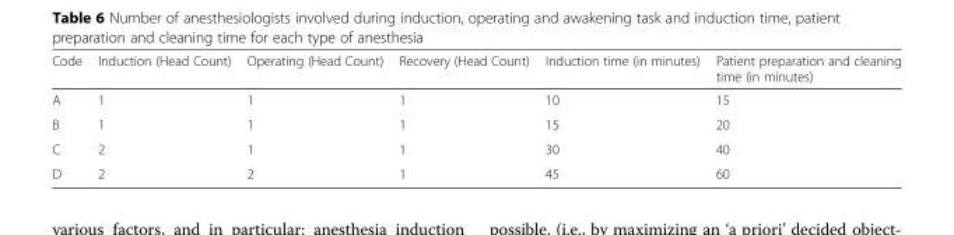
<table><thead><tr><td>Code</td><td>Induction (Head Count)</td><td>Operating (Head Count)</td><td>Recovery (Head Count)</td><td>Induction time (in minutes)</td><td>Patient preparation and cleaning time (in minutes)</td></tr></thead><tbody><tr><td>A</td><td>1</td><td>1</td><td>1</td><td>10</td><td>15</td></tr><tr><td>B</td><td>1</td><td>1</td><td>1</td><td>15</td><td>20</td></tr><tr><td>C</td><td>2</td><td>1</td><td>1</td><td>30</td><td>40</td></tr><tr><td>D</td><td>2</td><td>2</td><td>1</td><td>45</td><td>60</td></tr></tbody></table>